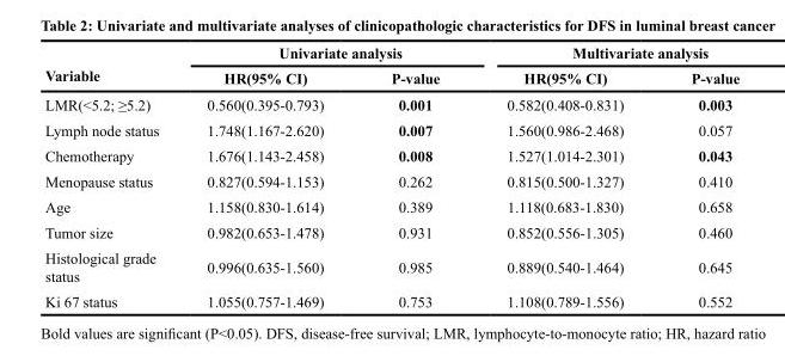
<table><thead><tr><td rowspan="2">Variable</td><td colspan="2">Univariate analysis</td><td colspan="2">Multivariate analysis</td></tr><tr><td>HR(95% CI)</td><td>P-value</td><td>HR(95% CI)</td><td>P-value</td></tr></thead><tbody><tr><td>LMR(&lt;5.2; ≥5.2)</td><td>0.560(0.395-0.793)</td><td>0.001</td><td>0.582(0.408-0.831)</td><td>0.003</td></tr><tr><td>Lymph node status</td><td>1.748(1.167-2.620)</td><td>0.007</td><td>1.560(0.986-2.468)</td><td>0.057</td></tr><tr><td>Chemotherapy</td><td>1.676(1.143-2.458)</td><td>0.008</td><td>1.527(1.014-2.301)</td><td>0.043</td></tr><tr><td>Menopause status</td><td>0.827(0.594-1.153)</td><td>0.262</td><td>0.815(0.500-1.327)</td><td>0.410</td></tr><tr><td>Age</td><td>1.158(0.830-1.614)</td><td>0.389</td><td>1.118(0.683-1.830)</td><td>0.658</td></tr><tr><td>Tumor size</td><td>0.982(0.653-1.478)</td><td>0.931</td><td>0.852(0.556-1.305)</td><td>0.460</td></tr><tr><td>Histological grade status</td><td>0.996(0.635-1.560)</td><td>0.985</td><td>0.889(0.540-1.464)</td><td>0.645</td></tr><tr><td>Ki 67 status</td><td>1.055(0.757-1.469)</td><td>0.753</td><td>1.108(0.789-1.556)</td><td>0.552</td></tr></tbody></table>